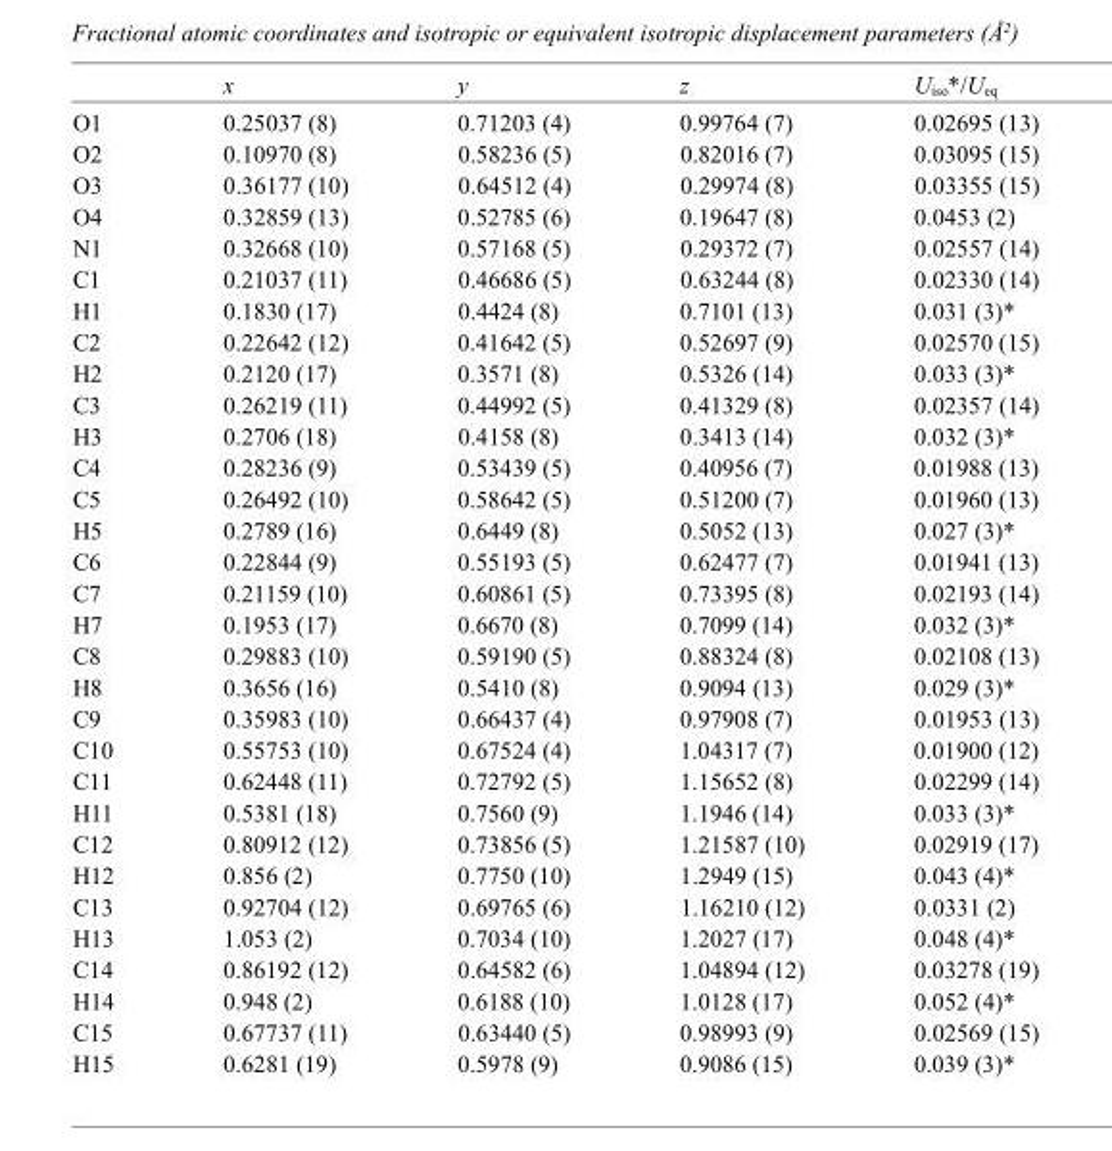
<table><thead><tr><td></td><td>x</td><td>y</td><td>z</td><td>U<sub>iso</sub>*/U<sub>eq</sub></td></tr></thead><tbody><tr><td>O1</td><td>0.25037 (8)</td><td>0.71203 (4)</td><td>0.99764 (7)</td><td>0.02695 (13)</td></tr><tr><td>O2</td><td>0.10970 (8)</td><td>0.58236 (5)</td><td>0.82016 (7)</td><td>0.03095 (15)</td></tr><tr><td>O3</td><td>0.36177 (10)</td><td>0.64512 (4)</td><td>0.29974 (8)</td><td>0.03355 (15)</td></tr><tr><td>O4</td><td>0.32859 (13)</td><td>0.52785 (6)</td><td>0.19647 (8)</td><td>0.0453 (2)</td></tr><tr><td>N1</td><td>0.32668 (10)</td><td>0.57168 (5)</td><td>0.29372 (7)</td><td>0.02557 (14)</td></tr><tr><td>C1</td><td>0.21037 (11)</td><td>0.46686 (5)</td><td>0.63244 (8)</td><td>0.02330 (14)</td></tr><tr><td>H1</td><td>0.1830 (17)</td><td>0.4424 (8)</td><td>0.7101 (13)</td><td>0.031 (3)*</td></tr><tr><td>C2</td><td>0.22642 (12)</td><td>0.41642 (5)</td><td>0.52697 (9)</td><td>0.02570 (15)</td></tr><tr><td>H2</td><td>0.2120 (17)</td><td>0.3571 (8)</td><td>0.5326 (14)</td><td>0.033 (3)*</td></tr><tr><td>C3</td><td>0.26219 (11)</td><td>0.44992 (5)</td><td>0.41329 (8)</td><td>0.02357 (14)</td></tr><tr><td>H3</td><td>0.2706 (18)</td><td>0.4158 (8)</td><td>0.3413 (14)</td><td>0.032 (3)*</td></tr><tr><td>C4</td><td>0.28236 (9)</td><td>0.53439 (5)</td><td>0.40956 (7)</td><td>0.01988 (13)</td></tr><tr><td>C5</td><td>0.26492 (10)</td><td>0.58642 (5)</td><td>0.51200 (7)</td><td>0.01960 (13)</td></tr><tr><td>H5</td><td>0.2789 (16)</td><td>0.6449 (8)</td><td>0.5052 (13)</td><td>0.027 (3)*</td></tr><tr><td>C6</td><td>0.22844 (9)</td><td>0.55193 (5)</td><td>0.62477 (7)</td><td>0.01941 (13)</td></tr><tr><td>C7</td><td>0.21159 (10)</td><td>0.60861 (5)</td><td>0.73395 (8)</td><td>0.02193 (14)</td></tr><tr><td>H7</td><td>0.1953 (17)</td><td>0.6670 (8)</td><td>0.7099 (14)</td><td>0.032 (3)*</td></tr><tr><td>C8</td><td>0.29883 (10)</td><td>0.59190 (5)</td><td>0.88324 (8)</td><td>0.02108 (13)</td></tr><tr><td>H8</td><td>0.3656 (16)</td><td>0.5410 (8)</td><td>0.9094 (13)</td><td>0.029 (3)*</td></tr><tr><td>C9</td><td>0.35983 (10)</td><td>0.66437 (4)</td><td>0.97908 (7)</td><td>0.01953 (13)</td></tr><tr><td>C10</td><td>0.55753 (10)</td><td>0.67524 (4)</td><td>1.04317 (7)</td><td>0.01900 (12)</td></tr><tr><td>C11</td><td>0.62448 (11)</td><td>0.72792 (5)</td><td>1.15652 (8)</td><td>0.02299 (14)</td></tr><tr><td>H11</td><td>0.5381 (18)</td><td>0.7560 (9)</td><td>1.1946 (14)</td><td>0.033 (3)*</td></tr><tr><td>C12</td><td>0.80912 (12)</td><td>0.73856 (5)</td><td>1.21587 (10)</td><td>0.02919 (17)</td></tr><tr><td>H12</td><td>0.856 (2)</td><td>0.7750 (10)</td><td>1.2949 (15)</td><td>0.043 (4)*</td></tr><tr><td>C13</td><td>0.92704 (12)</td><td>0.69765 (6)</td><td>1.16210 (12)</td><td>0.0331 (2)</td></tr><tr><td>H13</td><td>1.053 (2)</td><td>0.7034 (10)</td><td>1.2027 (17)</td><td>0.048 (4)*</td></tr><tr><td>C14</td><td>0.86192 (12)</td><td>0.64582 (6)</td><td>1.04894 (12)</td><td>0.03278 (19)</td></tr><tr><td>H14</td><td>0.948 (2)</td><td>0.6188 (10)</td><td>1.0128 (17)</td><td>0.052 (4)*</td></tr><tr><td>C15</td><td>0.67737 (11)</td><td>0.63440 (5)</td><td>0.98993 (9)</td><td>0.02569 (15)</td></tr><tr><td>H15</td><td>0.6281 (19)</td><td>0.5978 (9)</td><td>0.9086 (15)</td><td>0.039 (3)*</td></tr></tbody></table>